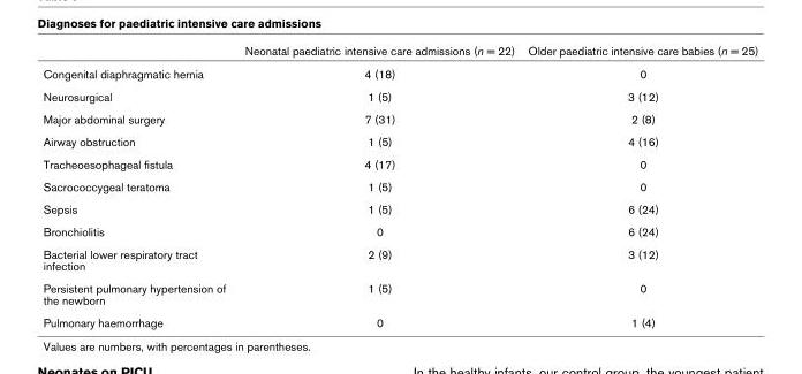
<table><thead><tr><td></td><td>Neonatal paediatric intensive care admissions (n = 22)</td><td>Older paediatric intensive care babies (n = 25)</td></tr></thead><tbody><tr><td>Congenital diaphragmatic hernia</td><td>4 (18)</td><td>0</td></tr><tr><td>Neurosurgical</td><td>1 (5)</td><td>3 (12)</td></tr><tr><td>Major abdominal surgery</td><td>7 (31)</td><td>2 (8)</td></tr><tr><td>Airway obstruction</td><td>1 (5)</td><td>4 (16)</td></tr><tr><td>Tracheoesophageal fistula</td><td>4 (17)</td><td>0</td></tr><tr><td>Sacrococcygeal teratoma</td><td>1 (5)</td><td>0</td></tr><tr><td>Sepsis</td><td>1 (5)</td><td>6 (24)</td></tr><tr><td>Bronchiolitis</td><td>0</td><td>6 (24)</td></tr><tr><td>Bacterial lower respiratory tract infection</td><td>2 (9)</td><td>3 (12)</td></tr><tr><td>Persistent pulmonary hypertension of the newborn</td><td>1 (5)</td><td>0</td></tr><tr><td>Pulmonary haemorrhage</td><td>0</td><td>1 (4)</td></tr></tbody></table>